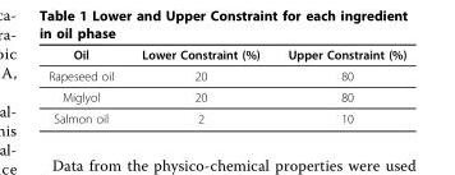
<table><thead><tr><td>Oil</td><td>Lower Constraint (%)</td><td>Upper Constraint (%)</td></tr></thead><tbody><tr><td>Rapeseed oil</td><td>20</td><td>80</td></tr><tr><td>Miglyol</td><td>20</td><td>80</td></tr><tr><td>Salmon oil</td><td>2</td><td>10</td></tr></tbody></table>